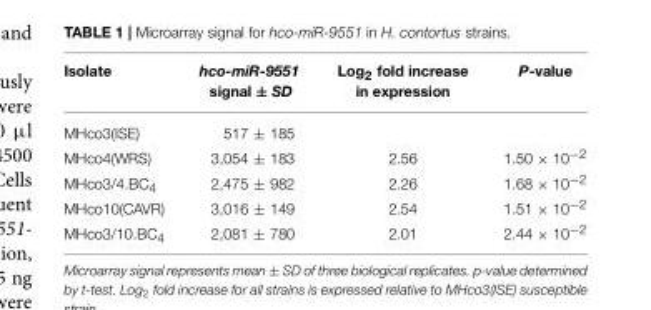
<table><thead><tr><td>Isolate</td><td>hco-miR-9551 signal ± SD</td><td>Log<sub>2</sub> fold increase in expression</td><td>P-value</td></tr></thead><tbody><tr><td>MHco3(ISE)</td><td>517 ± 185</td><td></td><td></td></tr><tr><td>MHco4(WRS)</td><td>3,054 ± 183</td><td>2.56</td><td>1.50 × 10<sup>−2</sup></td></tr><tr><td>MHco3/4.BC<sub>4</sub></td><td>2,475 ± 982</td><td>2.26</td><td>1.68 × 10<sup>−2</sup></td></tr><tr><td>MHco10(CAVR)</td><td>3,016 ± 149</td><td>2.54</td><td>1.51 × 10<sup>−2</sup></td></tr><tr><td>MHco3/10.BC<sub>4</sub></td><td>2,081 ± 780</td><td>2.01</td><td>2.44 × 10<sup>−2</sup></td></tr></tbody></table>